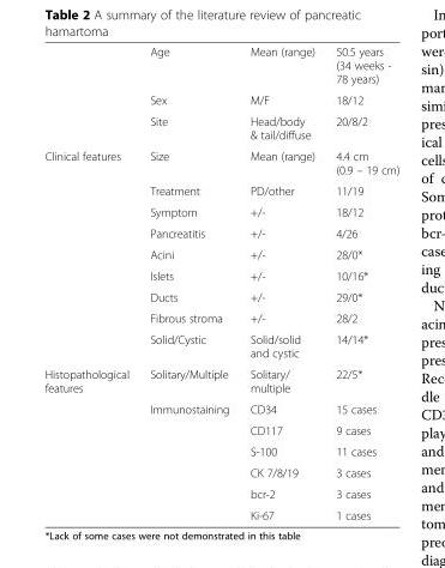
<table><thead><tr><td></td><td>Age</td><td>Mean (range)</td><td>50.5 years (34 weeks - 78 years)</td></tr></thead><tbody><tr><td></td><td>Sex</td><td>M/F</td><td>18/12</td></tr><tr><td></td><td>Site</td><td>Head/body &amp; tail/diffuse</td><td>20/8/2</td></tr><tr><td rowspan="9">Clinical features</td><td>Size</td><td>Mean (range)</td><td>4.4 cm (0.9 – 19 cm)</td></tr><tr><td>Treatment</td><td>PD/other</td><td>11/19</td></tr><tr><td>Symptom</td><td>+/-</td><td>18/12</td></tr><tr><td>Pancreatitis</td><td>+/-</td><td>4/26</td></tr><tr><td>Acini</td><td>+/-</td><td>28/0*</td></tr><tr><td>Islets</td><td>+/-</td><td>10/16*</td></tr><tr><td>Ducts</td><td>+/-</td><td>29/0*</td></tr><tr><td>Fibrous stroma</td><td>+/-</td><td>28/2</td></tr><tr><td>Solid/Cystic</td><td>Solid/solid and cystic</td><td>14/14*</td></tr><tr><td rowspan="7">Histopathological features</td><td>Solitary/Multiple</td><td>Solitary/ multiple</td><td>22/5*</td></tr><tr><td>Immunostaining</td><td>CD34</td><td>15 cases</td></tr><tr><td></td><td>CD117</td><td>9 cases</td></tr><tr><td></td><td>S-100</td><td>11 cases</td></tr><tr><td></td><td>CK 7/8/19</td><td>3 cases</td></tr><tr><td></td><td>bcr-2</td><td>3 cases</td></tr><tr><td></td><td>Ki-67</td><td>1 cases</td></tr></tbody></table>